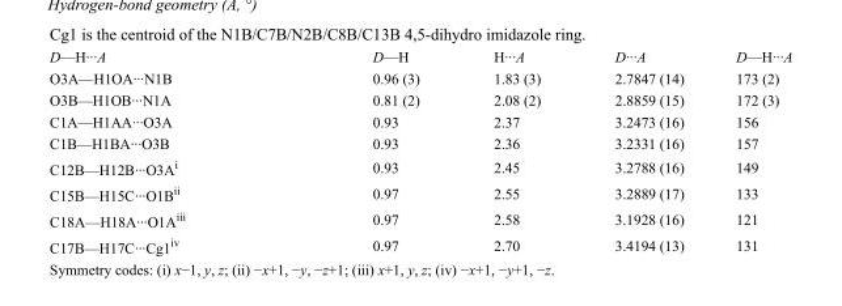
<table><tbody><tr><td>D—H···A</td><td>D—H</td><td>H···A</td><td>D···A</td><td>D—H···A</td></tr><tr><td>O3A—H1OA···N1B</td><td>0.96 (3)</td><td>1.83 (3)</td><td>2.7847 (14)</td><td>173 (2)</td></tr><tr><td>O3B—H1OB···N1A</td><td>0.81 (2)</td><td>2.08 (2)</td><td>2.8859 (15)</td><td>172 (3)</td></tr><tr><td>C1A—H1AA···O3A</td><td>0.93</td><td>2.37</td><td>3.2473 (16)</td><td>156</td></tr><tr><td>C1B—H1BA···O3B</td><td>0.93</td><td>2.36</td><td>3.2331 (16)</td><td>157</td></tr><tr><td>C12B—H12B···O3A<sup>i</sup></td><td>0.93</td><td>2.45</td><td>3.2788 (16)</td><td>149</td></tr><tr><td>C15B—H15C···O1B<sup>ii</sup></td><td>0.97</td><td>2.55</td><td>3.2889 (17)</td><td>133</td></tr><tr><td>C18A—H18A···O1A<sup>iii</sup></td><td>0.97</td><td>2.58</td><td>3.1928 (16)</td><td>121</td></tr><tr><td>C17B—H17C···Cg1<sup>iv</sup></td><td>0.97</td><td>2.70</td><td>3.4194 (13)</td><td>131</td></tr></tbody></table>